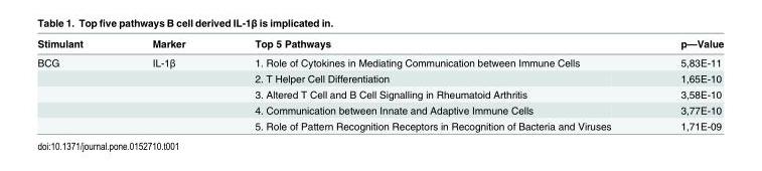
<table><thead><tr><td>Stimulant</td><td>Marker</td><td>Top 5 Pathways</td><td>p—Value</td></tr></thead><tbody><tr><td rowspan="5">BCG</td><td>IL-1β</td><td>1. Role of Cytokines in Mediating Communication between Immune Cells</td><td>5,83E-11</td></tr><tr><td></td><td>2. T Helper Cell Differentiation</td><td>1,65E-10</td></tr><tr><td></td><td>3. Altered T Cell and B Cell Signalling in Rheumatoid Arthritis</td><td>3,58E-10</td></tr><tr><td></td><td>4. Communication between Innate and Adaptive Immune Cells</td><td>3,77E-10</td></tr><tr><td></td><td>5. Role of Pattern Recognition Receptors in Recognition of Bacteria and Viruses</td><td>1,71E-09</td></tr></tbody></table>